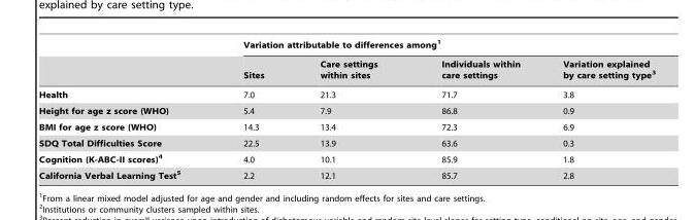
<table><thead><tr><td rowspan="2"></td><td colspan="4">Variation attributable to differences among<sup>1</sup></td></tr><tr><td>Sites</td><td>Care settings within sites</td><td>Individuals within care settings</td><td>Variation explained by care setting type<sup>3</sup></td></tr></thead><tbody><tr><td>Health</td><td>7.0</td><td>21.3</td><td>71.7</td><td>3.8</td></tr><tr><td>Height for age z score (WHO)</td><td>5.4</td><td>7.9</td><td>86.8</td><td>0.9</td></tr><tr><td>BMI for age z score (WHO)</td><td>14.3</td><td>13.4</td><td>72.3</td><td>6.9</td></tr><tr><td>SDQ Total Difficulties Score</td><td>22.5</td><td>13.9</td><td>63.6</td><td>0.3</td></tr><tr><td>Cognition (K-ABC-II scores)4</td><td>4.0</td><td>10.1</td><td>85.9</td><td>1.8</td></tr><tr><td>California Verbal Learning Test5</td><td>2.2</td><td>12.1</td><td>85.7</td><td>2.8</td></tr></tbody></table>